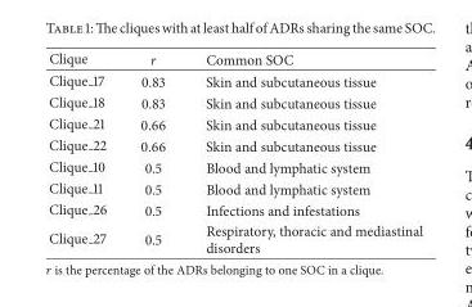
<table><thead><tr><td>Clique</td><td>r</td><td>Common SOC</td></tr></thead><tbody><tr><td>Clique 17</td><td>0.83</td><td>Skin and subcutaneous tissue</td></tr><tr><td>Clique 18</td><td>0.83</td><td>Skin and subcutaneous tissue</td></tr><tr><td>Clique 21</td><td>0.66</td><td>Skin and subcutaneous tissue</td></tr><tr><td>Clique 22</td><td>0.66</td><td>Skin and subcutaneous tissue</td></tr><tr><td>Clique 10</td><td>0.5</td><td>Blood and lymphatic system</td></tr><tr><td>Clique 11</td><td>0.5</td><td>Blood and lymphatic system</td></tr><tr><td>Clique 26</td><td>0.5</td><td>Infections and infestations</td></tr><tr><td>Clique 27</td><td>0.5</td><td>Respiratory, thoracic and mediastinal disorders</td></tr></tbody></table>